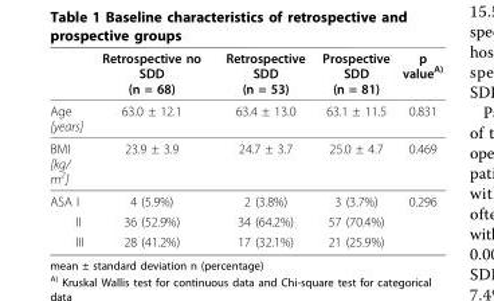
<table><thead><tr><td></td><td>Retrospective no SDD (n = 68)</td><td>Retrospective SDD (n = 53)</td><td>Prospective SDD (n = 81)</td><td>p value<sup>A)</sup></td></tr></thead><tbody><tr><td>Age [years]</td><td>63.0 ± 12.1</td><td>63.4 ± 13.0</td><td>63.1 ± 11.5</td><td>0.831</td></tr><tr><td>BMI [kg/ m<sup>2</sup>]</td><td>23.9 ± 3.9</td><td>24.7 ± 3.7</td><td>25.0 ± 4.7</td><td>0.469</td></tr><tr><td>ASA I</td><td>4 (5.9%)</td><td>2 (3.8%)</td><td>3 (3.7%)</td><td>0.296</td></tr><tr><td>II</td><td>36 (52.9%)</td><td>34 (64.2%)</td><td>57 (70.4%)</td><td></td></tr><tr><td>III</td><td>28 (41.2%)</td><td>17 (32.1%)</td><td>21 (25.9%)</td><td></td></tr></tbody></table>